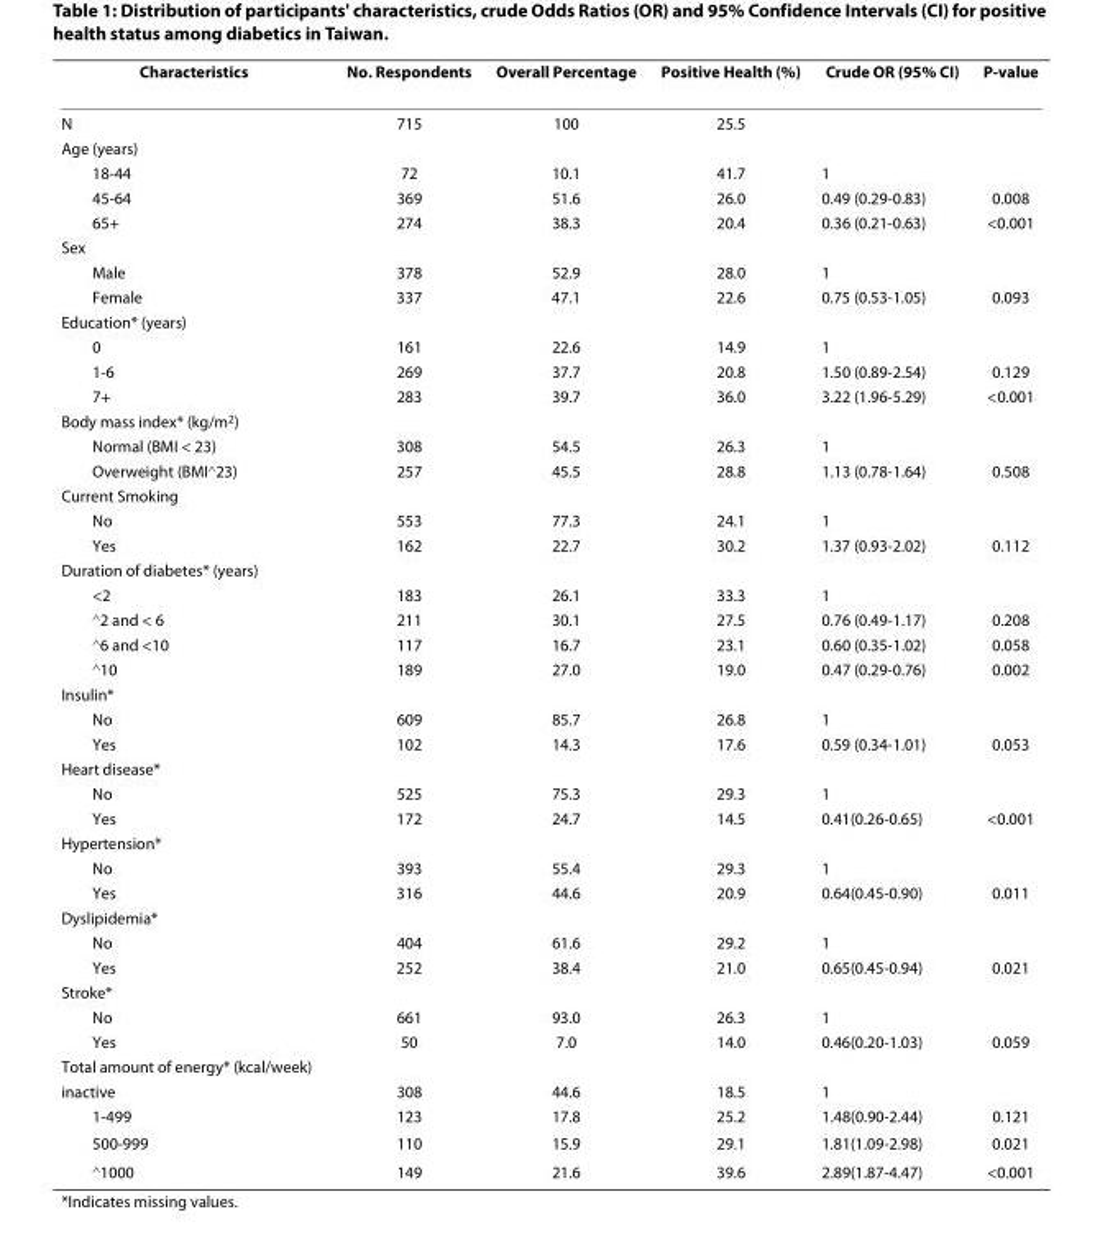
<table><thead><tr><td>Characteristics</td><td>No. Respondents</td><td>Overall Percentage</td><td>Positive Health (%)</td><td>Crude OR (95% CI)</td><td>P-value</td></tr></thead><tbody><tr><td>N</td><td>715</td><td>100</td><td>25.5</td><td></td><td></td></tr><tr><td colspan="6">Age (years)</td></tr><tr><td>18-44</td><td>72</td><td>10.1</td><td>41.7</td><td>1</td><td></td></tr><tr><td>45-64</td><td>369</td><td>51.6</td><td>26.0</td><td>0.49 (0.29-0.83)</td><td>0.008</td></tr><tr><td>65+</td><td>274</td><td>38.3</td><td>20.4</td><td>0.36 (0.21-0.63)</td><td>&lt;0.001</td></tr><tr><td colspan="6">Sex</td></tr><tr><td>Male</td><td>378</td><td>52.9</td><td>28.0</td><td>1</td><td></td></tr><tr><td>Female</td><td>337</td><td>47.1</td><td>22.6</td><td>0.75 (0.53-1.05)</td><td>0.093</td></tr><tr><td colspan="6">Education* (years)</td></tr><tr><td>0</td><td>161</td><td>22.6</td><td>14.9</td><td>1</td><td></td></tr><tr><td>1-6</td><td>269</td><td>37.7</td><td>20.8</td><td>1.50 (0.89-2.54)</td><td>0.129</td></tr><tr><td>7+</td><td>283</td><td>39.7</td><td>36.0</td><td>3.22 (1.96-5.29)</td><td>&lt;0.001</td></tr><tr><td colspan="6">Body mass index* (kg/m<sup>2</sup>)</td></tr><tr><td>Normal (BMI &lt; 23)</td><td>308</td><td>54.5</td><td>26.3</td><td>1</td><td></td></tr><tr><td>Overweight (BMI≧23)</td><td>257</td><td>45.5</td><td>28.8</td><td>1.13 (0.78-1.64)</td><td>0.508</td></tr><tr><td colspan="6">Current Smoking</td></tr><tr><td>No</td><td>553</td><td>77.3</td><td>24.1</td><td>1</td><td></td></tr><tr><td>Yes</td><td>162</td><td>22.7</td><td>30.2</td><td>1.37 (0.93-2.02)</td><td>0.112</td></tr><tr><td colspan="6">Duration of diabetes* (years)</td></tr><tr><td>&lt;2</td><td>183</td><td>26.1</td><td>33.3</td><td>1</td><td></td></tr><tr><td>≧2 and &lt; 6</td><td>211</td><td>30.1</td><td>27.5</td><td>0.76 (0.49-1.17)</td><td>0.208</td></tr><tr><td>≧6 and &lt;10</td><td>117</td><td>16.7</td><td>23.1</td><td>0.60 (0.35-1.02)</td><td>0.058</td></tr><tr><td>≧10</td><td>189</td><td>27.0</td><td>19.0</td><td>0.47 (0.29-0.76)</td><td>0.002</td></tr><tr><td colspan="6">Insulin*</td></tr><tr><td>No</td><td>609</td><td>85.7</td><td>26.8</td><td>1</td><td></td></tr><tr><td>Yes</td><td>102</td><td>14.3</td><td>17.6</td><td>0.59 (0.34-1.01)</td><td>0.053</td></tr><tr><td colspan="6">Heart disease*</td></tr><tr><td>No</td><td>525</td><td>75.3</td><td>29.3</td><td>1</td><td></td></tr><tr><td>Yes</td><td>172</td><td>24.7</td><td>14.5</td><td>0.41(0.26-0.65)</td><td>&lt;0.001</td></tr><tr><td colspan="6">Hypertension*</td></tr><tr><td>No</td><td>393</td><td>55.4</td><td>29.3</td><td>1</td><td></td></tr><tr><td>Yes</td><td>316</td><td>44.6</td><td>20.9</td><td>0.64(0.45-0.90)</td><td>0.011</td></tr><tr><td colspan="6">Dyslipidemia*</td></tr><tr><td>No</td><td>404</td><td>61.6</td><td>29.2</td><td>1</td><td></td></tr><tr><td>Yes</td><td>252</td><td>38.4</td><td>21.0</td><td>0.65(0.45-0.94)</td><td>0.021</td></tr><tr><td colspan="6">Stroke*</td></tr><tr><td>No</td><td>661</td><td>93.0</td><td>26.3</td><td>1</td><td></td></tr><tr><td>Yes</td><td>50</td><td>7.0</td><td>14.0</td><td>0.46(0.20-1.03)</td><td>0.059</td></tr><tr><td colspan="6">Total amount of energy* (kcal/week)</td></tr><tr><td>inactive</td><td>308</td><td>44.6</td><td>18.5</td><td>1</td><td></td></tr><tr><td>1-499</td><td>123</td><td>17.8</td><td>25.2</td><td>1.48(0.90-2.44)</td><td>0.121</td></tr><tr><td>500-999</td><td>110</td><td>15.9</td><td>29.1</td><td>1.81(1.09-2.98)</td><td>0.021</td></tr><tr><td>≧1000</td><td>149</td><td>21.6</td><td>39.6</td><td>2.89(1.87-4.47)</td><td>&lt;0.001</td></tr></tbody></table>